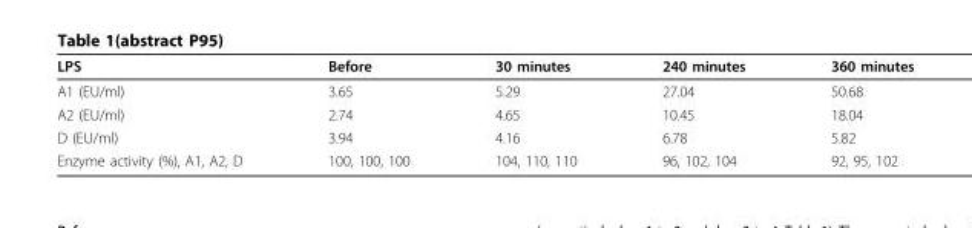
<table><thead><tr><td>LPS</td><td>Before</td><td>30 minutes</td><td>240 minutes</td><td>360 minutes</td></tr></thead><tbody><tr><td>A1 (EU/ml)</td><td>3.65</td><td>5.29</td><td>27.04</td><td>50.68</td></tr><tr><td>A2 (EU/ml)</td><td>2.74</td><td>4.65</td><td>10.45</td><td>18.04</td></tr><tr><td>D (EU/ml)</td><td>3.94</td><td>4.16</td><td>6.78</td><td>5.82</td></tr><tr><td>Enzyme activity (%), A1, A2, D</td><td>100, 100, 100</td><td>104, 110, 110</td><td>96, 102, 104</td><td>92, 95, 102</td></tr></tbody></table>